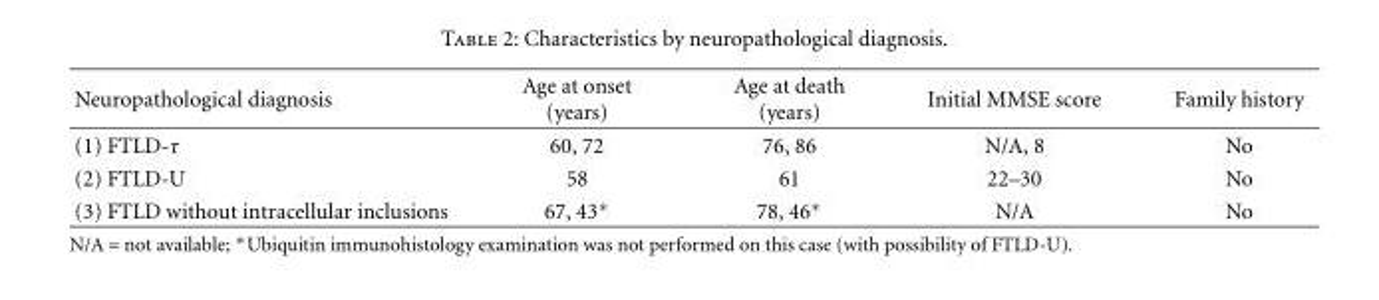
<table><thead><tr><td>Neuropathological diagnosis</td><td>Age at onset (years)</td><td>Age at death (years)</td><td>Initial MMSE score</td><td>Family history</td></tr></thead><tbody><tr><td>(1) FTLD-τ</td><td>60, 72</td><td>76, 86</td><td>N/A, 8</td><td>No</td></tr><tr><td>(2) FTLD-U</td><td>58</td><td>61</td><td>22–30</td><td>No</td></tr><tr><td>(3) FTLD without intracellular inclusions</td><td>67, 43∗</td><td>78, 46∗</td><td>N/A</td><td>No</td></tr></tbody></table>